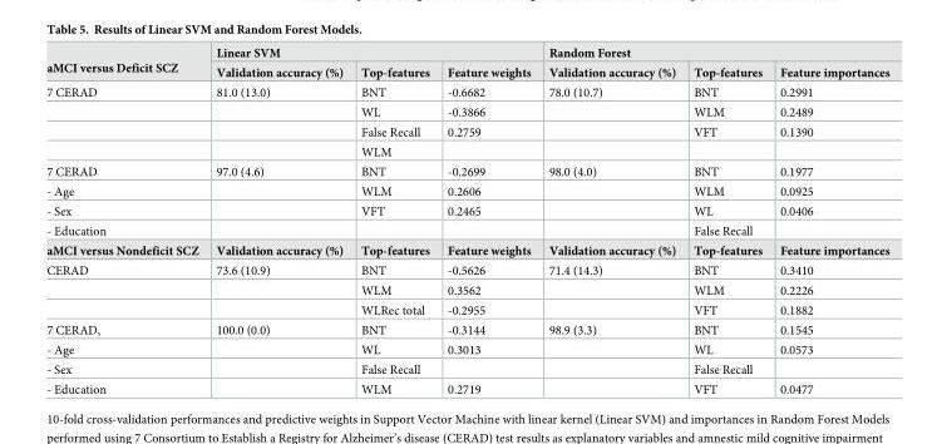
<table><tbody><tr><td rowspan="2">aMCI versus Deficit SCZ</td><td colspan="3">Linear SVM</td><td colspan="3">Random Forest</td></tr><tr><td>Validation accuracy (%)</td><td>Top-features</td><td>Feature weights</td><td>Validation accuracy (%)</td><td>Top-features</td><td>Feature importances</td></tr><tr><td rowspan="4">7 CERAD</td><td>81.0 (13.0)</td><td>BNT</td><td>-0.6682</td><td>78.0 (10.7)</td><td>BNT</td><td>0.2991</td></tr><tr><td></td><td>WL</td><td>-0.3866</td><td></td><td>WLM</td><td>0.2489</td></tr><tr><td></td><td>False Recall</td><td>0.2759</td><td></td><td>VFT</td><td>0.1390</td></tr><tr><td></td><td>WLM</td><td></td><td></td><td></td><td></td></tr><tr><td>7 CERAD</td><td>97.0 (4.6)</td><td>BNT</td><td>-0.2699</td><td>98.0 (4.0)</td><td>BNT</td><td>0.1977</td></tr><tr><td>- Age</td><td></td><td>WLM</td><td>0.2606</td><td></td><td>WLM</td><td>0.0925</td></tr><tr><td>- Sex</td><td></td><td>VFT</td><td>0.2465</td><td></td><td>WL</td><td>0.0406</td></tr><tr><td>- Education</td><td></td><td></td><td></td><td></td><td>False Recall</td><td></td></tr><tr><td>aMCI versus Nondeficit SCZ</td><td>Validation accuracy (%)</td><td>Top-features</td><td>Feature weights</td><td>Validation accuracy (%)</td><td>Top-features</td><td>Feature importances</td></tr><tr><td rowspan="3">CERAD</td><td>73.6 (10.9)</td><td>BNT</td><td>-0.5626</td><td>71.4 (14.3)</td><td>BNT</td><td>0.3410</td></tr><tr><td></td><td>WLM</td><td>0.3562</td><td></td><td>WLM</td><td>0.2226</td></tr><tr><td></td><td>WLRec total</td><td>-0.2955</td><td></td><td>VFT</td><td>0.1882</td></tr><tr><td>7 CERAD,</td><td>100.0 (0.0)</td><td>BNT</td><td>-0.3144</td><td>98.9 (3.3)</td><td>BNT</td><td>0.1545</td></tr><tr><td>- Age</td><td></td><td>WL</td><td>0.3013</td><td></td><td>WL</td><td>0.0573</td></tr><tr><td>- Sex</td><td></td><td>False Recall</td><td></td><td></td><td>False Recall</td><td></td></tr><tr><td>- Education</td><td></td><td>WLM</td><td>0.2719</td><td></td><td>VFT</td><td>0.0477</td></tr></tbody></table>